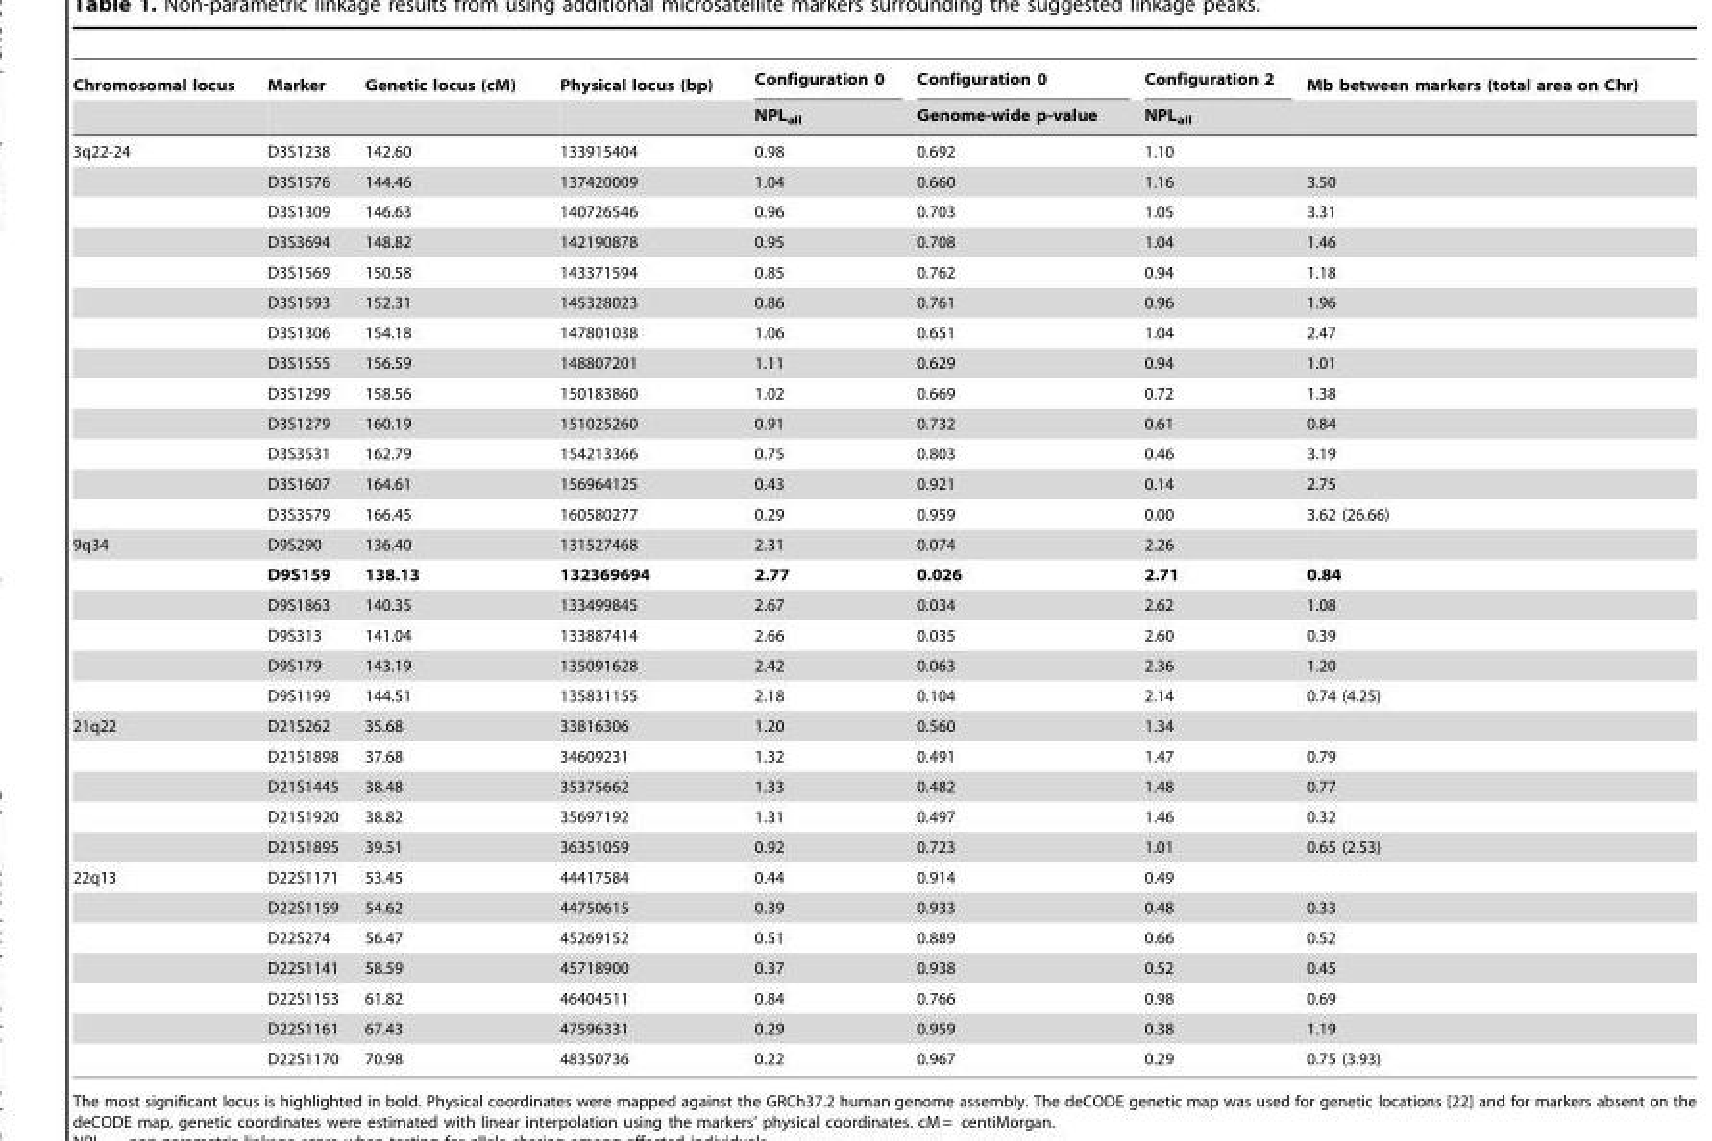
<table><thead><tr><td rowspan="2">Chromosomal locus</td><td rowspan="2">Marker</td><td rowspan="2">Genetic locus (cM)</td><td rowspan="2">Physical locus (bp)</td><td rowspan="2">Configuration 0 NPL<sub>all</sub></td><td rowspan="2">Configuration 0 Genome-wide p-value</td><td rowspan="2">Configuration 2 NPL<sub>all</sub></td><td rowspan="2">Mb between markers (total area on Chr)</td></tr><tr></tr></thead><tbody><tr><td rowspan="13">3q22-24</td><td>D3S1238</td><td>142.60</td><td>133915404</td><td>0.98</td><td>0.692</td><td>1.10</td><td></td></tr><tr><td>D3S1576</td><td>144.46</td><td>137420009</td><td>1.04</td><td>0.660</td><td>1.16</td><td>3.50</td></tr><tr><td>D3S1309</td><td>146.63</td><td>140726546</td><td>0.96</td><td>0.703</td><td>1.05</td><td>3.31</td></tr><tr><td>D3S3694</td><td>148.82</td><td>142190878</td><td>0.95</td><td>0.708</td><td>1.04</td><td>1.46</td></tr><tr><td>D3S1569</td><td>150.58</td><td>143371594</td><td>0.85</td><td>0.762</td><td>0.94</td><td>1.18</td></tr><tr><td>D3S1593</td><td>152.31</td><td>145328023</td><td>0.86</td><td>0.761</td><td>0.96</td><td>1.96</td></tr><tr><td>D3S1306</td><td>154.18</td><td>147801038</td><td>1.06</td><td>0.651</td><td>1.04</td><td>2.47</td></tr><tr><td>D3S1555</td><td>156.59</td><td>148807201</td><td>1.11</td><td>0.629</td><td>0.94</td><td>1.01</td></tr><tr><td>D3S1299</td><td>158.56</td><td>150183860</td><td>1.02</td><td>0.669</td><td>0.72</td><td>1.38</td></tr><tr><td>D3S1279</td><td>160.19</td><td>151025260</td><td>0.91</td><td>0.732</td><td>0.61</td><td>0.84</td></tr><tr><td>D3S3531</td><td>162.79</td><td>154213366</td><td>0.75</td><td>0.803</td><td>0.46</td><td>3.19</td></tr><tr><td>D3S1607</td><td>164.61</td><td>156964125</td><td>0.43</td><td>0.921</td><td>0.14</td><td>2.75</td></tr><tr><td>D3S3579</td><td>166.45</td><td>160580277</td><td>0.29</td><td>0.959</td><td>0.00</td><td>3.62 (26.66)</td></tr><tr><td rowspan="6">9q34</td><td>D9S290</td><td>136.40</td><td>131527468</td><td>2.31</td><td>0.074</td><td>2.26</td><td></td></tr><tr><td>D9S159</td><td>138.13</td><td>132369694</td><td>2.77</td><td>0.026</td><td>2.71</td><td>0.84</td></tr><tr><td>D9S1863</td><td>140.35</td><td>133499845</td><td>2.67</td><td>0.034</td><td>2.62</td><td>1.08</td></tr><tr><td>D9S313</td><td>141.04</td><td>133887414</td><td>2.66</td><td>0.035</td><td>2.60</td><td>0.39</td></tr><tr><td>D9S179</td><td>143.19</td><td>135091628</td><td>2.42</td><td>0.063</td><td>2.36</td><td>1.20</td></tr><tr><td>D9S1199</td><td>144.51</td><td>135831155</td><td>2.18</td><td>0.104</td><td>2.14</td><td>0.74 (4.25)</td></tr><tr><td rowspan="5">21q22</td><td>D21S262</td><td>35.68</td><td>33816306</td><td>1.20</td><td>0.560</td><td>1.34</td><td></td></tr><tr><td>D21S1898</td><td>37.68</td><td>34609231</td><td>1.32</td><td>0.491</td><td>1.47</td><td>0.79</td></tr><tr><td>D21S1445</td><td>38.48</td><td>35375662</td><td>1.33</td><td>0.482</td><td>1.48</td><td>0.77</td></tr><tr><td>D21S1920</td><td>38.82</td><td>35697192</td><td>1.31</td><td>0.497</td><td>1.46</td><td>0.32</td></tr><tr><td>D21S1895</td><td>39.51</td><td>36351059</td><td>0.92</td><td>0.723</td><td>1.01</td><td>0.65 (2.53)</td></tr><tr><td rowspan="7">22q13</td><td>D22S1171</td><td>53.45</td><td>44417584</td><td>0.44</td><td>0.914</td><td>0.49</td><td></td></tr><tr><td>D22S1159</td><td>54.62</td><td>44750615</td><td>0.39</td><td>0.933</td><td>0.48</td><td>0.33</td></tr><tr><td>D22S274</td><td>56.47</td><td>45269152</td><td>0.51</td><td>0.889</td><td>0.66</td><td>0.52</td></tr><tr><td>D22S1141</td><td>58.59</td><td>45718900</td><td>0.37</td><td>0.938</td><td>0.52</td><td>0.45</td></tr><tr><td>D22S1153</td><td>61.82</td><td>46404511</td><td>0.84</td><td>0.766</td><td>0.98</td><td>0.69</td></tr><tr><td>D22S1161</td><td>67.43</td><td>47596331</td><td>0.29</td><td>0.959</td><td>0.38</td><td>1.19</td></tr><tr><td>D22S1170</td><td>70.98</td><td>48350736</td><td>0.22</td><td>0.967</td><td>0.29</td><td>0.75 (3.93)</td></tr></tbody></table>